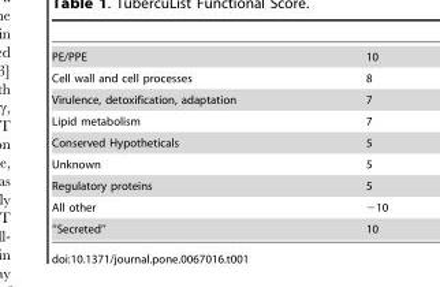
<table><tbody><tr><td>PE/PPE</td><td>10</td></tr><tr><td>Cell wall and cell processes</td><td>8</td></tr><tr><td>Virulence, detoxification, adaptation</td><td>7</td></tr><tr><td>Lipid metabolism</td><td>7</td></tr><tr><td>Conserved Hypotheticals</td><td>5</td></tr><tr><td>Unknown</td><td>5</td></tr><tr><td>Regulatory proteins</td><td>5</td></tr><tr><td>All other</td><td>−10</td></tr><tr><td>‘‘Secreted’’</td><td>10</td></tr></tbody></table>